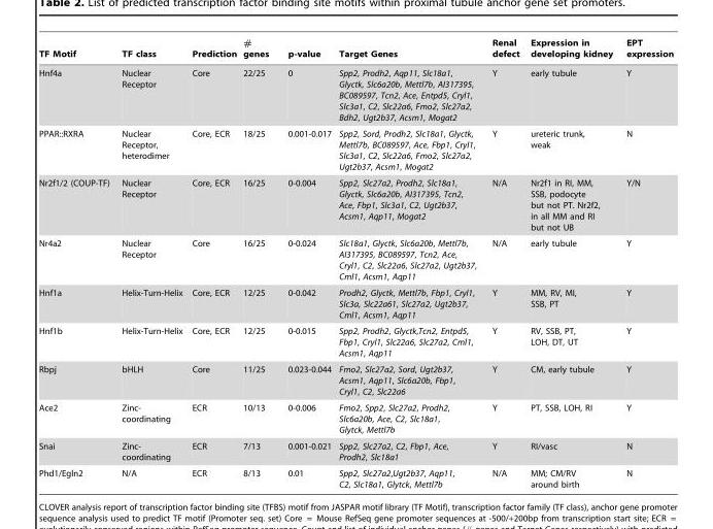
<table><thead><tr><td>TF Motif</td><td>TF class</td><td>Prediction</td><td># genes</td><td>p-value</td><td>Target Genes</td><td>Renal defect</td><td>Expression in developing kidney</td><td>EPT expression</td></tr></thead><tbody><tr><td>Hnf4a</td><td>Nuclear Receptor</td><td>Core</td><td>22/25</td><td>0</td><td>Spp2, Prodh2, Aqp11, Slc18a1, Glyctk, Slc6a20b, Mettl7b, AI317395, BC089597, Tcn2, Ace, Entpd5, Cryl1, Slc3a1, C2, Slc22a6, Fmo2, Slc27a2, Bdh2, Ugt2b37, Acsm1, Mogat2</td><td>Y</td><td>early tubule</td><td>Y</td></tr><tr><td>PPAR::RXRA</td><td>Nuclear Receptor, heterodimer</td><td>Core, ECR</td><td>18/25</td><td>0.001-0.017</td><td>Spp2, Sord, Prodh2, Slc18a1, Glyctk, Mettl7b, BC089597, Ace, Fbp1, Cryl1, Slc3a1, C2, Slc22a6, Fmo2, Slc27a2, Ugt2b37, Acsm1, Mogat2</td><td>Y</td><td>ureteric trunk, weak</td><td>N</td></tr><tr><td>Nr2f1/2 (COUP-TF)</td><td>Nuclear Receptor</td><td>Core, ECR</td><td>16/25</td><td>0-0.004</td><td>Spp2, Slc27a2, Prodh2, Slc18a1, Glyctk, Slc6a20b, AI317395, Tcn2, Ace, Fbp1, Slc3a1, C2, Ugt2b37, Acsm1, Aqp11, Mogat2</td><td>N/A</td><td>Nr2f1 in RI, MM, SSB, podocyte but not PT. Nr2f2, in all MM and RI but not UB</td><td>Y/N</td></tr><tr><td>Nr4a2</td><td>Nuclear Receptor</td><td>Core</td><td>16/25</td><td>0-0.024</td><td>Slc18a1, Glyctk, Slc6a20b, Mettl7b, AI317395, BC089597, Tcn2, Ace, Cryl1, C2, Slc22a6, Slc27a2, Ugt2b37, Cml1, Acsm1, Aqp11</td><td>N/A</td><td>early tubule</td><td>Y</td></tr><tr><td>Hnf1a</td><td>Helix-Turn-Helix</td><td>Core, ECR</td><td>12/25</td><td>0-0.042</td><td>Prodh2, Glyctk, Mettl7b, Fbp1, Cryl1, Slc3a, Slc22a61, Slc27a2, Ugt2b37, Cml1, Acsm1, Aqp11</td><td>Y</td><td>MM, RV, MI, SSB, PT</td><td>Y</td></tr><tr><td>Hnf1b</td><td>Helix-Turn-Helix</td><td>Core, ECR</td><td>12/25</td><td>0-0.015</td><td>Spp2, Prodh2, Glyctk,Tcn2, Entpd5, Fbp1, Cryl1, Slc22a6, Slc27a2, Cml1, Acsm1, Aqp11</td><td>Y</td><td>RV, SSB, PT, LOH, DT, UT</td><td>Y</td></tr><tr><td>Rbpj</td><td>bHLH</td><td>Core</td><td>11/25</td><td>0.023-0.044</td><td>Fmo2, Slc27a2, Sord, Ugt2b37, Acsm1, Aqp11, Slc6a20b, Fbp1, Cryl1, C2, Slc22a6</td><td>Y</td><td>CM, early tubule</td><td>Y</td></tr><tr><td>Ace2</td><td>Zinc- coordinating</td><td>ECR</td><td>10/13</td><td>0-0.006</td><td>Fmo2, Spp2, Slc27a2, Prodh2, Slc6a20b, Ace, C2, Slc18a1, Glytck, Mettl7b</td><td>Y</td><td>PT, SSB, LOH, RI</td><td>Y</td></tr><tr><td>Snai</td><td>Zinc- coordinating</td><td>ECR</td><td>7/13</td><td>0.001-0.021</td><td>Spp2, Slc27a2, C2, Fbp1, Ace, Prodh2, Slc18a1</td><td>Y</td><td>RI/vasc</td><td>N</td></tr><tr><td>Phd1/Egln2</td><td>N/A</td><td>ECR</td><td>8/13</td><td>0.01</td><td>Spp2, Slc27a2,Ugt2b37, Aqp11, C2, Slc18a1, Glytck, Mettl7b</td><td>N/A</td><td>MM; CM/RV around birth</td><td>N</td></tr></tbody></table>